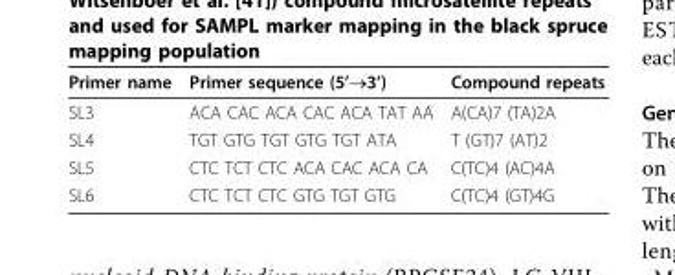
<table><thead><tr><td>Primer name</td><td>Primer sequence (5’→3’)</td><td>Compound repeats</td></tr></thead><tbody><tr><td>SL3</td><td>ACA CAC ACA CAC ACA TAT AA</td><td>A(CA)7 (TA)2A</td></tr><tr><td>SL4</td><td>TGT GTG TGT GTG TGT ATA</td><td>T (GT)7 (AT)2</td></tr><tr><td>SL5</td><td>CTC TCT CTC ACA CAC ACA CA</td><td>C(TC)4 (AC)4A</td></tr><tr><td>SL6</td><td>CTC TCT CTC GTG TGT GTG</td><td>C(TC)4 (GT)4G</td></tr></tbody></table>